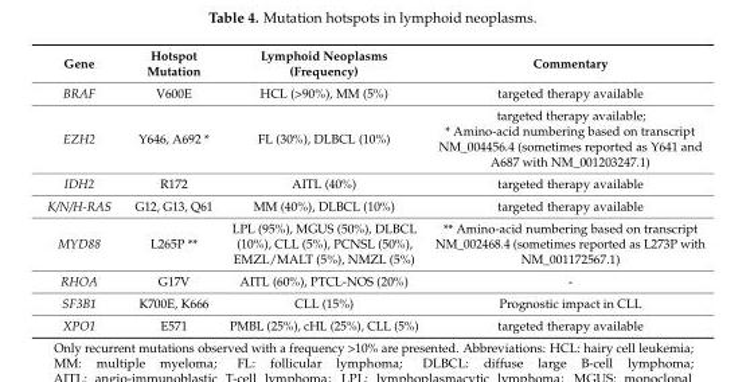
<table><thead><tr><td>Gene</td><td>Hotspot Mutation</td><td>Lymphoid Neoplasms (Frequency)</td><td>Commentary</td></tr></thead><tbody><tr><td>BRAF</td><td>V600E</td><td>HCL (&gt;90%), MM (5%)</td><td>targeted therapy available</td></tr><tr><td>EZH2</td><td>Y646, A692 *</td><td>FL (30%), DLBCL (10%)</td><td>targeted therapy available; * Amino-acid numbering based on transcript NM_004456.4 (sometimes reported as Y641 and A687 with NM_001203247.1)</td></tr><tr><td>IDH2</td><td>R172</td><td>AITL (40%)</td><td>targeted therapy available</td></tr><tr><td>K/N/H-RAS</td><td>G12, G13, Q61</td><td>MM (40%), DLBCL (10%)</td><td>targeted therapy available</td></tr><tr><td>MYD88</td><td>L265P **</td><td>LPL (95%), MGUS (50%), DLBCL (10%), CLL (5%), PCNSL (50%), EMZL/MALT (5%), NMZL (5%)</td><td>** Amino-acid numbering based on transcript NM_002468.4 (sometimes reported as L273P with NM_001172567.1)</td></tr><tr><td>RHOA</td><td>G17V</td><td>AITL (60%), PTCL-NOS (20%)</td><td>-</td></tr><tr><td>SF3B1</td><td>K700E, K666</td><td>CLL (15%)</td><td>Prognostic impact in CLL</td></tr><tr><td>XPO1</td><td>E571</td><td>PMBL (25%), cHL (25%), CLL (5%)</td><td>targeted therapy available</td></tr></tbody></table>